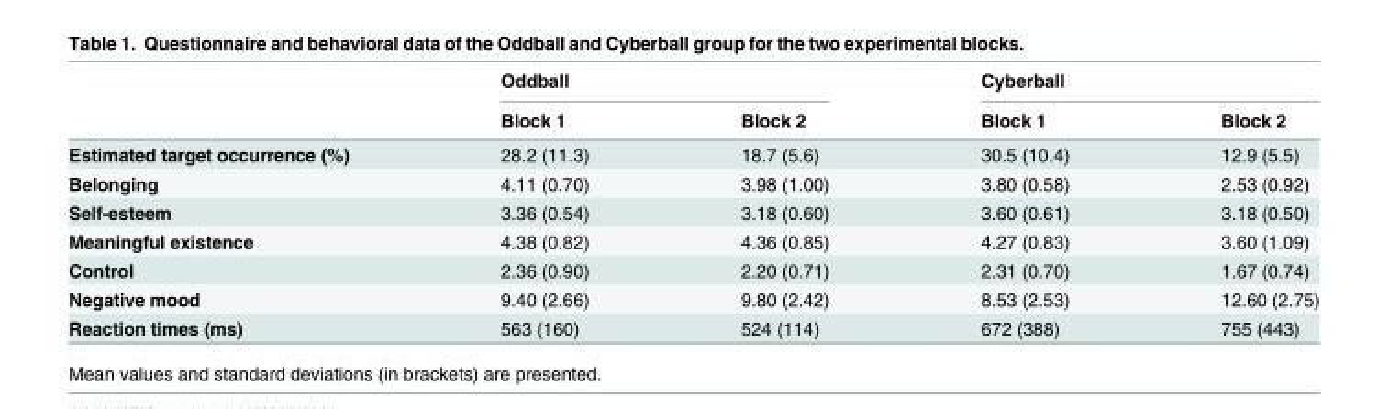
<table><thead><tr><td rowspan="2"></td><td colspan="2">Oddball</td><td colspan="2">Cyberball</td></tr><tr><td>Block 1</td><td>Block 2</td><td>Block 1</td><td>Block 2</td></tr></thead><tbody><tr><td>Estimated target occurrence (%)</td><td>28.2 (11.3)</td><td>18.7 (5.6)</td><td>30.5 (10.4)</td><td>12.9 (5.5)</td></tr><tr><td>Belonging</td><td>4.11 (0.70)</td><td>3.98 (1.00)</td><td>3.80 (0.58)</td><td>2.53 (0.92)</td></tr><tr><td>Self-esteem</td><td>3.36 (0.54)</td><td>3.18 (0.60)</td><td>3.60 (0.61)</td><td>3.18 (0.50)</td></tr><tr><td>Meaningful existence</td><td>4.38 (0.82)</td><td>4.36 (0.85)</td><td>4.27 (0.83)</td><td>3.60 (1.09)</td></tr><tr><td>Control</td><td>2.36 (0.90)</td><td>2.20 (0.71)</td><td>2.31 (0.70)</td><td>1.67 (0.74)</td></tr><tr><td>Negative mood</td><td>9.40 (2.66)</td><td>9.80 (2.42)</td><td>8.53 (2.53)</td><td>12.60 (2.75)</td></tr><tr><td>Reaction times (ms)</td><td>563 (160)</td><td>524 (114)</td><td>672 (388)</td><td>755 (443)</td></tr></tbody></table>